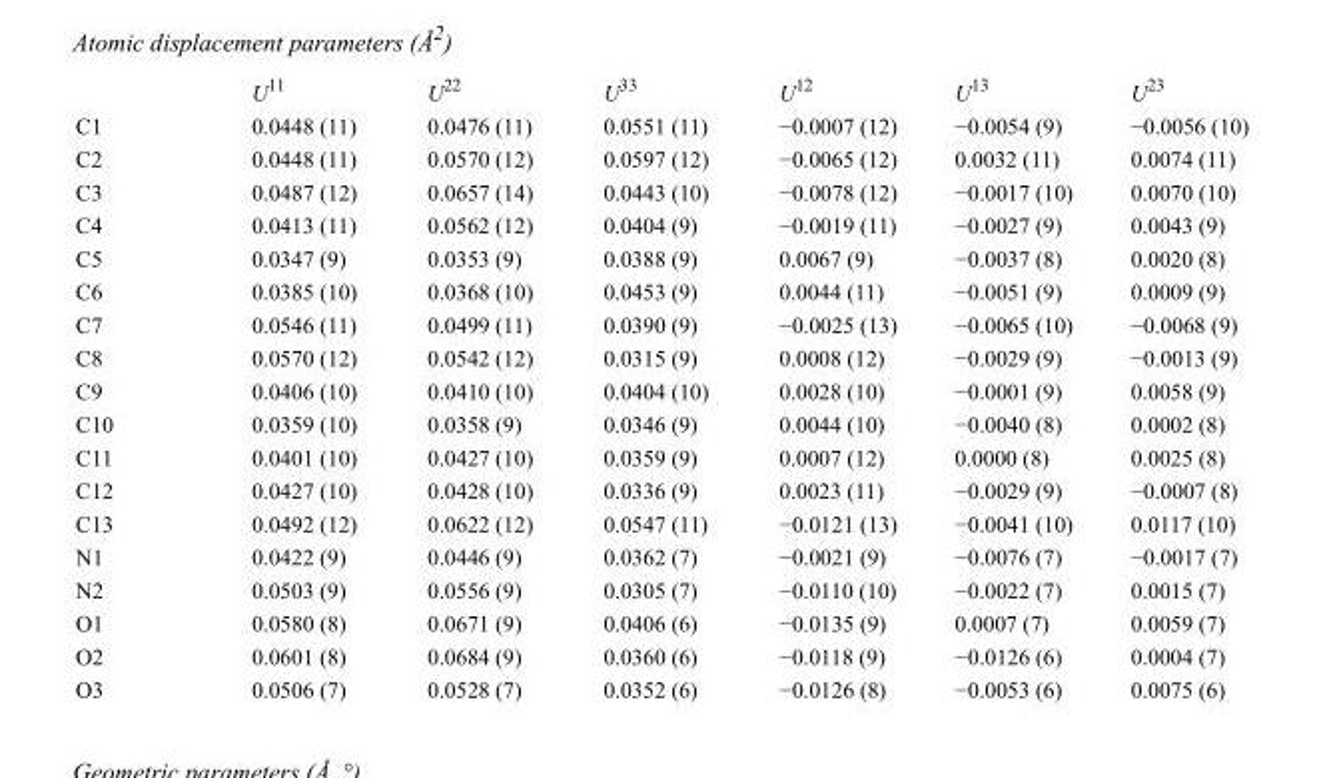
<table><thead><tr><td></td><td>U<sup>11</sup></td><td>U<sup>22</sup></td><td>U<sup>33</sup></td><td>U<sup>12</sup></td><td>U<sup>13</sup></td><td>U<sup>23</sup></td></tr></thead><tbody><tr><td>C1</td><td>0.0448 (11)</td><td>0.0476 (11)</td><td>0.0551 (11)</td><td>−0.0007 (12)</td><td>−0.0054 (9)</td><td>−0.0056 (10)</td></tr><tr><td>C2</td><td>0.0448 (11)</td><td>0.0570 (12)</td><td>0.0597 (12)</td><td>−0.0065 (12)</td><td>0.0032 (11)</td><td>0.0074 (11)</td></tr><tr><td>C3</td><td>0.0487 (12)</td><td>0.0657 (14)</td><td>0.0443 (10)</td><td>−0.0078 (12)</td><td>−0.0017 (10)</td><td>0.0070 (10)</td></tr><tr><td>C4</td><td>0.0413 (11)</td><td>0.0562 (12)</td><td>0.0404 (9)</td><td>−0.0019 (11)</td><td>−0.0027 (9)</td><td>0.0043 (9)</td></tr><tr><td>C5</td><td>0.0347 (9)</td><td>0.0353 (9)</td><td>0.0388 (9)</td><td>0.0067 (9)</td><td>−0.0037 (8)</td><td>0.0020 (8)</td></tr><tr><td>C6</td><td>0.0385 (10)</td><td>0.0368 (10)</td><td>0.0453 (9)</td><td>0.0044 (11)</td><td>−0.0051 (9)</td><td>0.0009 (9)</td></tr><tr><td>C7</td><td>0.0546 (11)</td><td>0.0499 (11)</td><td>0.0390 (9)</td><td>−0.0025 (13)</td><td>−0.0065 (10)</td><td>−0.0068 (9)</td></tr><tr><td>C8</td><td>0.0570 (12)</td><td>0.0542 (12)</td><td>0.0315 (9)</td><td>0.0008 (12)</td><td>−0.0029 (9)</td><td>−0.0013 (9)</td></tr><tr><td>C9</td><td>0.0406 (10)</td><td>0.0410 (10)</td><td>0.0404 (10)</td><td>0.0028 (10)</td><td>−0.0001 (9)</td><td>0.0058 (9)</td></tr><tr><td>C10</td><td>0.0359 (10)</td><td>0.0358 (9)</td><td>0.0346 (9)</td><td>0.0044 (10)</td><td>−0.0040 (8)</td><td>0.0002 (8)</td></tr><tr><td>C11</td><td>0.0401 (10)</td><td>0.0427 (10)</td><td>0.0359 (9)</td><td>0.0007 (12)</td><td>0.0000 (8)</td><td>0.0025 (8)</td></tr><tr><td>C12</td><td>0.0427 (10)</td><td>0.0428 (10)</td><td>0.0336 (9)</td><td>0.0023 (11)</td><td>−0.0029 (9)</td><td>−0.0007 (8)</td></tr><tr><td>C13</td><td>0.0492 (12)</td><td>0.0622 (12)</td><td>0.0547 (11)</td><td>−0.0121 (13)</td><td>−0.0041 (10)</td><td>0.0117 (10)</td></tr><tr><td>N1</td><td>0.0422 (9)</td><td>0.0446 (9)</td><td>0.0362 (7)</td><td>−0.0021 (9)</td><td>−0.0076 (7)</td><td>−0.0017 (7)</td></tr><tr><td>N2</td><td>0.0503 (9)</td><td>0.0556 (9)</td><td>0.0305 (7)</td><td>−0.0110 (10)</td><td>−0.0022 (7)</td><td>0.0015 (7)</td></tr><tr><td>O1</td><td>0.0580 (8)</td><td>0.0671 (9)</td><td>0.0406 (6)</td><td>−0.0135 (9)</td><td>0.0007 (7)</td><td>0.0059 (7)</td></tr><tr><td>O2</td><td>0.0601 (8)</td><td>0.0684 (9)</td><td>0.0360 (6)</td><td>−0.0118 (9)</td><td>−0.0126 (6)</td><td>0.0004 (7)</td></tr><tr><td>O3</td><td>0.0506 (7)</td><td>0.0528 (7)</td><td>0.0352 (6)</td><td>−0.0126 (8)</td><td>−0.0053 (6)</td><td>0.0075 (6)</td></tr></tbody></table>